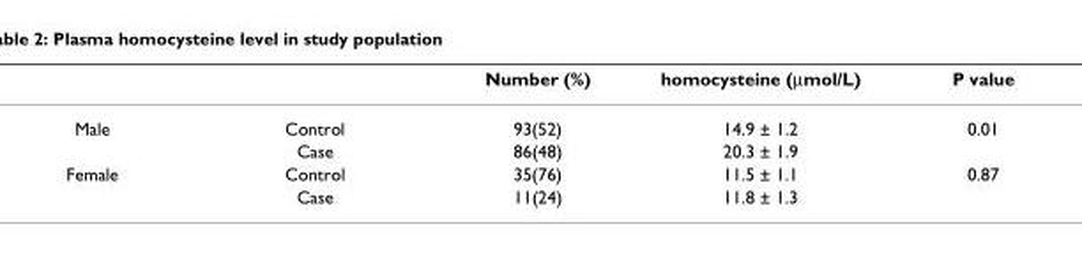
<table><thead><tr><td></td><td></td><td>Number (%)</td><td>homocysteine (μmol/L)</td><td>P value</td></tr></thead><tbody><tr><td rowspan="2">Male</td><td>Control</td><td>93(52)</td><td>14.9 ± 1.2</td><td>0.01</td></tr><tr><td>Case</td><td>86(48)</td><td>20.3 ± 1.9</td><td></td></tr><tr><td rowspan="2">Female</td><td>Control</td><td>35(76)</td><td>11.5 ± 1.1</td><td>0.87</td></tr><tr><td>Case</td><td>11(24)</td><td>11.8 ± 1.3</td><td></td></tr></tbody></table>